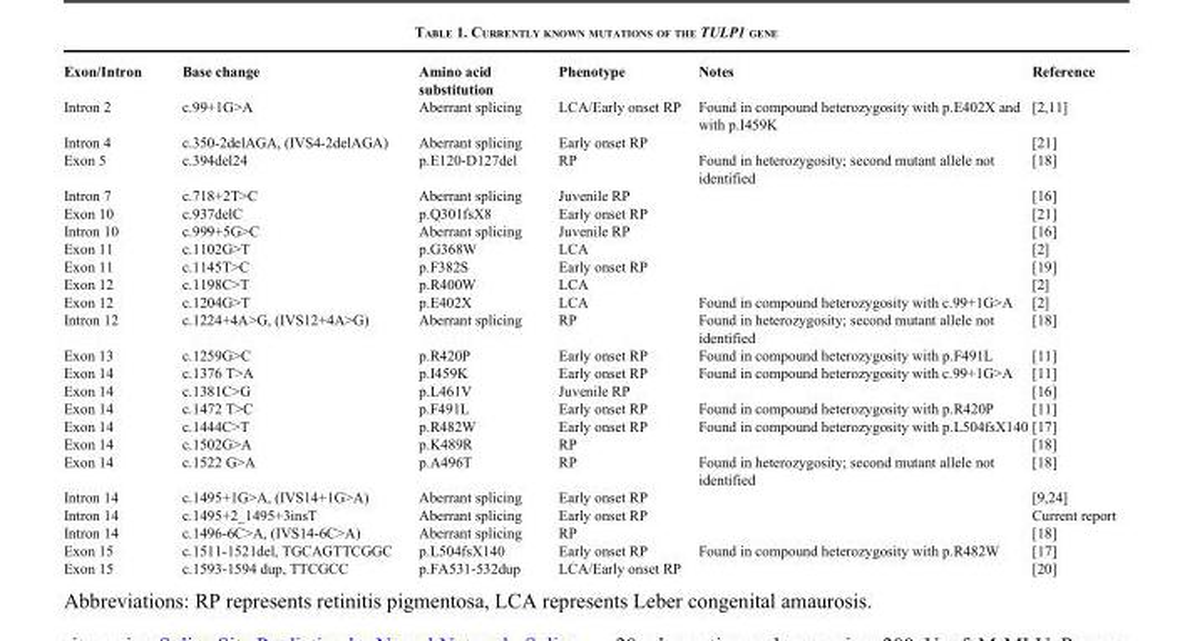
<table><thead><tr><td>Exon/Intron</td><td>Base change</td><td>Amino acid substitution</td><td>Phenotype</td><td>Notes</td><td>Reference</td></tr></thead><tbody><tr><td>Intron 2</td><td>c.99+1G&gt;A</td><td>Aberrant splicing</td><td>LCA/Early onset RP</td><td>Found in compound heterozygosity with p.E402X and with p.I459K</td><td>[2,11]</td></tr><tr><td>Intron 4</td><td>c.350-2delAGA, (IVS4-2delAGA)</td><td>Aberrant splicing</td><td>Early onset RP</td><td></td><td>[21]</td></tr><tr><td>Exon 5</td><td>c.394del24</td><td>p.E120-D127del</td><td>RP</td><td>Found in heterozygosity; second mutant allele not identified</td><td>[18]</td></tr><tr><td>Intron 7</td><td>c.718+2T&gt;C</td><td>Aberrant splicing</td><td>Juvenile RP</td><td></td><td>[16]</td></tr><tr><td>Exon 10</td><td>c.937delC</td><td>p.Q301fsX8</td><td>Early onset RP</td><td></td><td>[21]</td></tr><tr><td>Intron 10</td><td>c.999+5G&gt;C</td><td>Aberrant splicing</td><td>Juvenile RP</td><td></td><td>[16]</td></tr><tr><td>Exon 11</td><td>c.1102G&gt;T</td><td>p.G368W</td><td>LCA</td><td></td><td>[2]</td></tr><tr><td>Exon 11</td><td>c.1145T&gt;C</td><td>p.F382S</td><td>Early onset RP</td><td></td><td>[19]</td></tr><tr><td>Exon 12</td><td>c.1198C&gt;T</td><td>p.R400W</td><td>LCA</td><td></td><td>[2]</td></tr><tr><td>Exon 12</td><td>c.1204G&gt;T</td><td>p.E402X</td><td>LCA</td><td>Found in compound heterozygosity with c.99+1G&gt;A</td><td>[2]</td></tr><tr><td>Intron 12</td><td>c.1224+4A&gt;G, (IVS12+4A&gt;G)</td><td>Aberrant splicing</td><td>RP</td><td>Found in heterozygosity; second mutant allele not identified</td><td>[18]</td></tr><tr><td>Exon 13</td><td>c.1259G&gt;C</td><td>p.R420P</td><td>Early onset RP</td><td>Found in compound heterozygosity with p.F491L</td><td>[11]</td></tr><tr><td>Exon 14</td><td>c.1376 T&gt;A</td><td>p.I459K</td><td>Early onset RP</td><td>Found in compound heterozygosity with c.99+1G&gt;A</td><td>[11]</td></tr><tr><td>Exon 14</td><td>c.1381C&gt;G</td><td>p.L461V</td><td>Juvenile RP</td><td></td><td>[16]</td></tr><tr><td>Exon 14</td><td>c.1472 T&gt;C</td><td>p.F491L</td><td>Early onset RP</td><td>Found in compound heterozygosity with p.R420P</td><td>[11]</td></tr><tr><td>Exon 14</td><td>c.1444C&gt;T</td><td>p.R482W</td><td>Early onset RP</td><td>Found in compound heterozygosity with p.L504fsX140</td><td>[17]</td></tr><tr><td>Exon 14</td><td>c.1502G&gt;A</td><td>p.K489R</td><td>RP</td><td></td><td>[18]</td></tr><tr><td>Exon 14</td><td>c.1522 G&gt;A</td><td>p.A496T</td><td>RP</td><td>Found in heterozygosity; second mutant allele not identified</td><td>[18]</td></tr><tr><td>Intron 14</td><td>c.1495+1G&gt;A, (IVS14+1G&gt;A)</td><td>Aberrant splicing</td><td>Early onset RP</td><td></td><td>[9,24]</td></tr><tr><td>Intron 14</td><td>c.1495+2_1495+3insT</td><td>Aberrant splicing</td><td>Early onset RP</td><td></td><td>Current report</td></tr><tr><td>Intron 14</td><td>c.1496-6C&gt;A, (IVS14-6C&gt;A)</td><td>Aberrant splicing</td><td>RP</td><td></td><td>[18]</td></tr><tr><td>Exon 15</td><td>c.1511-1521del, TGCAGTTCGGC</td><td>p.L504fsX140</td><td>Early onset RP</td><td>Found in compound heterozygosity with p.R482W</td><td>[17]</td></tr><tr><td>Exon 15</td><td>c.1593-1594 dup, TTCGCC</td><td>p.FA531-532dup</td><td>LCA/Early onset RP</td><td></td><td>[20]</td></tr></tbody></table>